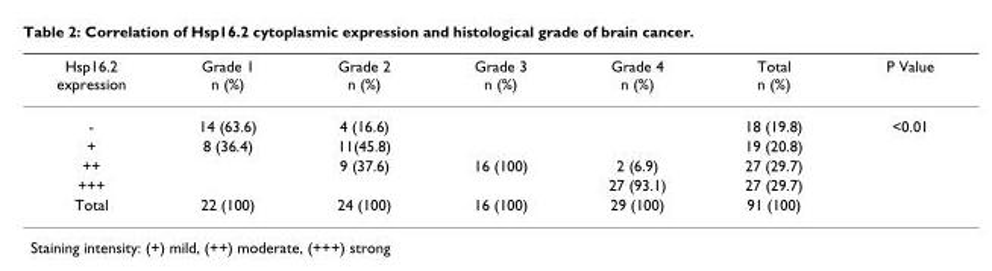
<table><thead><tr><td>Hsp16.2 expression</td><td>Grade 1 n (%)</td><td>Grade 2 n (%)</td><td>Grade 3 n (%)</td><td>Grade 4 n (%)</td><td>Total n (%)</td><td>P Value</td></tr></thead><tbody><tr><td>-</td><td>14 (63.6)</td><td>4 (16.6)</td><td></td><td></td><td>18 (19.8)</td><td>&lt;0.01</td></tr><tr><td>+</td><td>8 (36.4)</td><td>11(45.8)</td><td></td><td></td><td>19 (20.8)</td><td></td></tr><tr><td>++</td><td></td><td>9 (37.6)</td><td>16 (100)</td><td>2 (6.9)</td><td>27 (29.7)</td><td></td></tr><tr><td>+++</td><td></td><td></td><td></td><td>27 (93.1)</td><td>27 (29.7)</td><td></td></tr><tr><td>Total</td><td>22 (100)</td><td>24 (100)</td><td>16 (100)</td><td>29 (100)</td><td>91 (100)</td><td></td></tr></tbody></table>